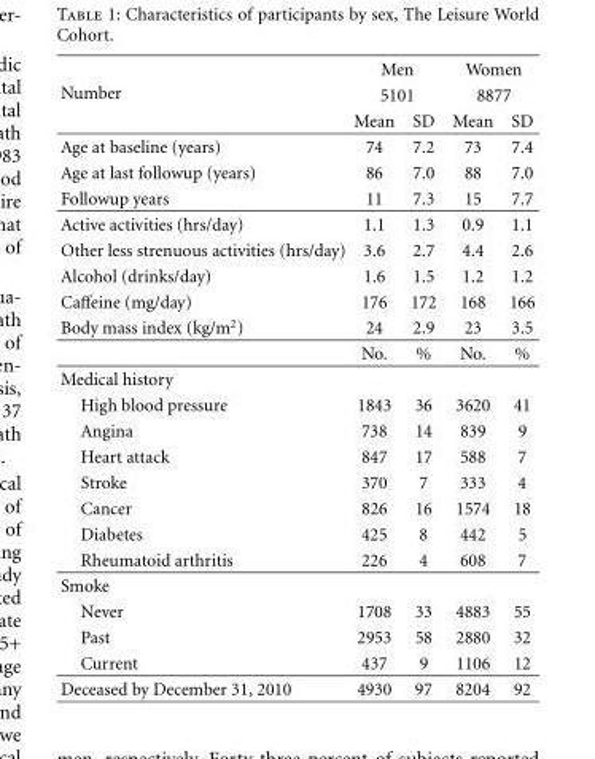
<table><thead><tr><td rowspan="3">Number</td><td rowspan="2" colspan="2">Men 5101</td><td rowspan="2" colspan="2">Women 8877</td></tr><tr></tr><tr><td>Mean</td><td>SD</td><td>Mean</td><td>SD</td></tr></thead><tbody><tr><td>Age at baseline (years)</td><td>74</td><td>7.2</td><td>73</td><td>7.4</td></tr><tr><td>Age at last followup (years)</td><td>86</td><td>7.0</td><td>88</td><td>7.0</td></tr><tr><td>Followup years</td><td>11</td><td>7.3</td><td>15</td><td>7.7</td></tr><tr><td>Active activities (hrs/day)</td><td>1.1</td><td>1.3</td><td>0.9</td><td>1.1</td></tr><tr><td>Other less strenuous activities (hrs/day)</td><td>3.6</td><td>2.7</td><td>4.4</td><td>2.6</td></tr><tr><td>Alcohol (drinks/day)</td><td>1.6</td><td>1.5</td><td>1.2</td><td>1.2</td></tr><tr><td>Caffeine (mg/day)</td><td>176</td><td>172</td><td>168</td><td>166</td></tr><tr><td rowspan="2">Body mass index (kg/m<sup>2</sup>)</td><td>24</td><td>2.9</td><td>23</td><td>3.5</td></tr><tr><td>No.</td><td>%</td><td>No.</td><td>%</td></tr><tr><td colspan="5">Medical history</td></tr><tr><td>High blood pressure</td><td>1843</td><td>36</td><td>3620</td><td>41</td></tr><tr><td>Angina</td><td>738</td><td>14</td><td>839</td><td>9</td></tr><tr><td>Heart attack</td><td>847</td><td>17</td><td>588</td><td>7</td></tr><tr><td>Stroke</td><td>370</td><td>7</td><td>333</td><td>4</td></tr><tr><td>Cancer</td><td>826</td><td>16</td><td>1574</td><td>18</td></tr><tr><td>Diabetes</td><td>425</td><td>8</td><td>442</td><td>5</td></tr><tr><td>Rheumatoid arthritis</td><td>226</td><td>4</td><td>608</td><td>7</td></tr><tr><td colspan="5">Smoke</td></tr><tr><td>Never</td><td>1708</td><td>33</td><td>4883</td><td>55</td></tr><tr><td>Past</td><td>2953</td><td>58</td><td>2880</td><td>32</td></tr><tr><td>Current</td><td>437</td><td>9</td><td>1106</td><td>12</td></tr><tr><td>Deceased by December 31, 2010</td><td>4930</td><td>97</td><td>8204</td><td>92</td></tr></tbody></table>